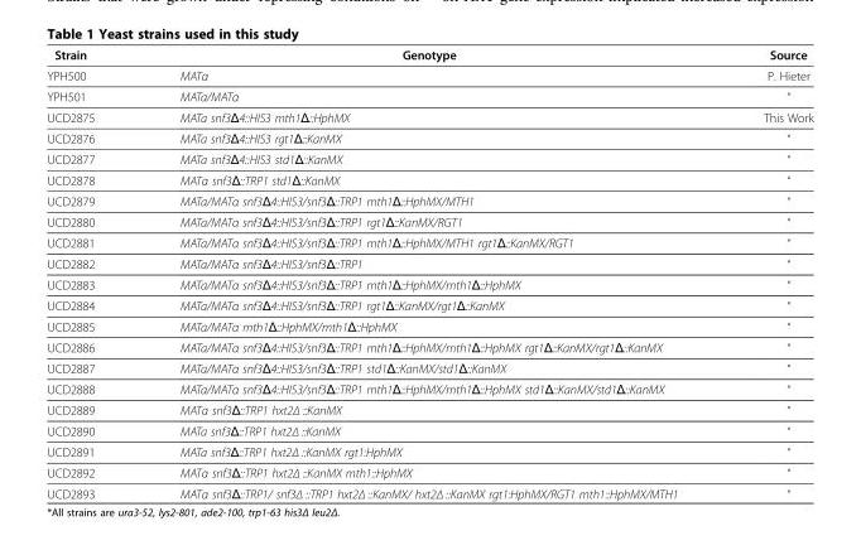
<table><thead><tr><td>Strain</td><td>Genotype</td><td>Source</td></tr></thead><tbody><tr><td>YPH500</td><td>MATα</td><td>P. Hieter</td></tr><tr><td>YPH501</td><td>MATa/MATα</td><td>“</td></tr><tr><td>UCD2875</td><td>MATa snf3Δ4::HIS3 mth1Δ::HphMX</td><td>This Work</td></tr><tr><td>UCD2876</td><td>MATa snf3Δ4::HIS3 rgt1Δ::KanMX</td><td>“</td></tr><tr><td>UCD2877</td><td>MATa snf3Δ4::HIS3 std1Δ::KanMX</td><td>“</td></tr><tr><td>UCD2878</td><td>MATα snf3Δ::TRP1 std1Δ::KanMX</td><td>“</td></tr><tr><td>UCD2879</td><td>MATa/MATα snf3Δ4::HIS3/snf3Δ::TRP1 mth1Δ::HphMX/MTH1</td><td>“</td></tr><tr><td>UCD2880</td><td>MATa/MATα snf3Δ4::HIS3/snf3Δ::TRP1 rgt1Δ::KanMX/RGT1</td><td>“</td></tr><tr><td>UCD2881</td><td>MATa/MATα snf3Δ4::HIS3/snf3Δ::TRP1 mth1Δ::HphMX/MTH1 rgt1Δ::KanMX/RGT1</td><td>“</td></tr><tr><td>UCD2882</td><td>MATa/MATα snf3Δ4::HIS3/snf3Δ::TRP1</td><td>“</td></tr><tr><td>UCD2883</td><td>MATa/MATα snf3Δ4::HIS3/snf3Δ::TRP1 mth1Δ::HphMX/mth1Δ::HphMX</td><td>“</td></tr><tr><td>UCD2884</td><td>MATa/MATα snf3Δ4::HIS3/snf3Δ::TRP1 rgt1Δ::KanMX/rgt1Δ::KanMX</td><td>“</td></tr><tr><td>UCD2885</td><td>MATa/MATα mth1Δ::HphMX/mth1Δ::HphMX</td><td>“</td></tr><tr><td>UCD2886</td><td>MATa/MATα snf3Δ4::HIS3/snf3Δ::TRP1 mth1Δ::HphMX/mth1Δ::HphMX rgt1Δ::KanMX/rgt1Δ::KanMX</td><td>“</td></tr><tr><td>UCD2887</td><td>MATa/MATα snf3Δ4::HIS3/snf3Δ::TRP1 std1Δ::KanMX/std1Δ::KanMX</td><td>“</td></tr><tr><td>UCD2888</td><td>MATa/MATα snf3Δ4::HIS3/snf3Δ::TRP1 mth1Δ::HphMX/mth1Δ::HphMX std1Δ::KanMX/std1Δ::KanMX</td><td>“</td></tr><tr><td>UCD2889</td><td>MATα snf3Δ::TRP1 hxt2Δ ::KanMX</td><td>“</td></tr><tr><td>UCD2890</td><td>MATa snf3Δ::TRP1 hxt2Δ ::KanMX</td><td>“</td></tr><tr><td>UCD2891</td><td>MATa snf3Δ::TRP1 hxt2Δ ::KanMX rgt1:HphMX</td><td>“</td></tr><tr><td>UCD2892</td><td>MATα snf3Δ::TRP1 hxt2Δ ::KanMX mth1::HphMX</td><td>“</td></tr><tr><td>UCD2893</td><td>MATα snf3Δ::TRP1/ snf3Δ ::TRP1 hxt2Δ ::KanMX/ hxt2Δ ::KanMX rgt1:HphMX/RGT1 mth1::HphMX/MTH1</td><td>“</td></tr></tbody></table>